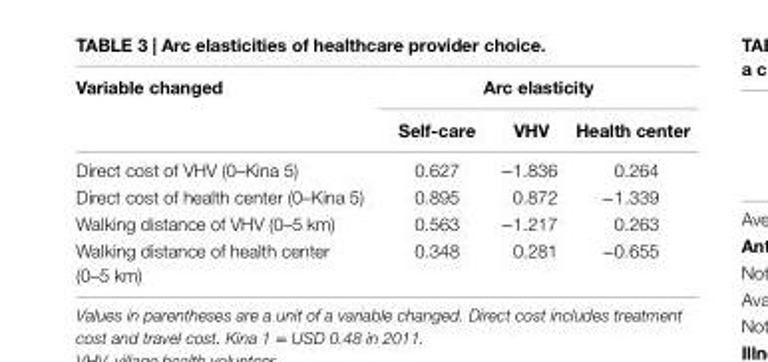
<table><thead><tr><td rowspan="2">Variable changed</td><td colspan="3">arc elasticity</td></tr><tr><td>self-care</td><td>VhV</td><td>health center</td></tr></thead><tbody><tr><td>Direct cost of VHV (0–Kina 5)</td><td>0.627</td><td>−1.836</td><td>0.264</td></tr><tr><td>Direct cost of health center (0–Kina 5)</td><td>0.895</td><td>0.872</td><td>−1.339</td></tr><tr><td>Walking distance of VHV (0–5 km)</td><td>0.563</td><td>−1.217</td><td>0.263</td></tr><tr><td>Walking distance of health center (0–5 km)</td><td>0.348</td><td>0.281</td><td>−0.655</td></tr></tbody></table>